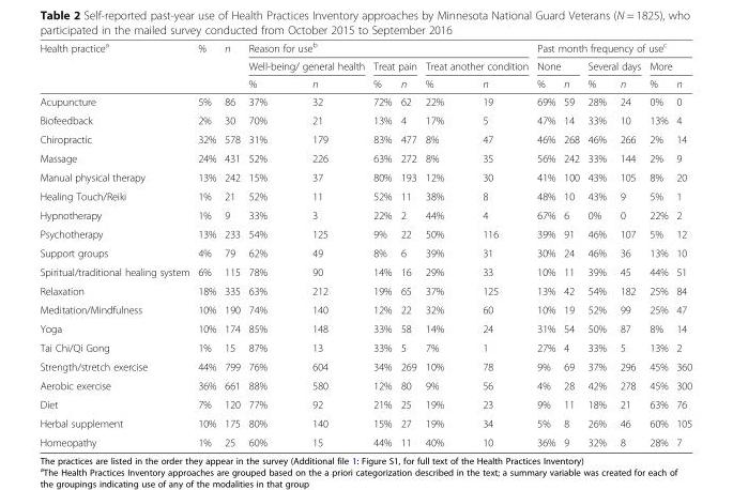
<table><thead><tr><td rowspan="3">Health practice<sup>a</sup></td><td rowspan="3">%</td><td rowspan="3">n</td><td colspan="6">Reason for use<sup>b</sup></td><td colspan="6">Past month frequency of use<sup>c</sup></td></tr><tr><td colspan="2">Well-being/ general health</td><td colspan="2">Treat pain</td><td colspan="2">Treat another condition</td><td colspan="2">None</td><td colspan="2">Several days</td><td colspan="2">More</td></tr><tr><td>%</td><td>n</td><td>%</td><td>n</td><td>%</td><td>n</td><td>%</td><td>n</td><td>%</td><td>n</td><td>%</td><td>n</td></tr></thead><tbody><tr><td>Acupuncture</td><td>5%</td><td>86</td><td>37%</td><td>32</td><td>72%</td><td>62</td><td>22%</td><td>19</td><td>69%</td><td>59</td><td>28%</td><td>24</td><td>0%</td><td>0</td></tr><tr><td>Biofeedback</td><td>2%</td><td>30</td><td>70%</td><td>21</td><td>13%</td><td>4</td><td>17%</td><td>5</td><td>47%</td><td>14</td><td>33%</td><td>10</td><td>13%</td><td>4</td></tr><tr><td>Chiropractic</td><td>32%</td><td>578</td><td>31%</td><td>179</td><td>83%</td><td>477</td><td>8%</td><td>47</td><td>46%</td><td>268</td><td>46%</td><td>266</td><td>2%</td><td>14</td></tr><tr><td>Massage</td><td>24%</td><td>431</td><td>52%</td><td>226</td><td>63%</td><td>272</td><td>8%</td><td>35</td><td>56%</td><td>242</td><td>33%</td><td>144</td><td>2%</td><td>9</td></tr><tr><td>Manual physical therapy</td><td>13%</td><td>242</td><td>15%</td><td>37</td><td>80%</td><td>193</td><td>12%</td><td>30</td><td>41%</td><td>100</td><td>43%</td><td>105</td><td>8%</td><td>20</td></tr><tr><td>Healing Touch/Reiki</td><td>1%</td><td>21</td><td>52%</td><td>11</td><td>52%</td><td>11</td><td>38%</td><td>8</td><td>48%</td><td>10</td><td>43%</td><td>9</td><td>5%</td><td>1</td></tr><tr><td>Hypnotherapy</td><td>1%</td><td>9</td><td>33%</td><td>3</td><td>22%</td><td>2</td><td>44%</td><td>4</td><td>67%</td><td>6</td><td>0%</td><td>0</td><td>22%</td><td>2</td></tr><tr><td>Psychotherapy</td><td>13%</td><td>233</td><td>54%</td><td>125</td><td>9%</td><td>22</td><td>50%</td><td>116</td><td>39%</td><td>91</td><td>46%</td><td>107</td><td>5%</td><td>12</td></tr><tr><td>Support groups</td><td>4%</td><td>79</td><td>62%</td><td>49</td><td>8%</td><td>6</td><td>39%</td><td>31</td><td>30%</td><td>24</td><td>46%</td><td>36</td><td>13%</td><td>10</td></tr><tr><td>Spiritual/traditional healing system</td><td>6%</td><td>115</td><td>78%</td><td>90</td><td>14%</td><td>16</td><td>29%</td><td>33</td><td>10%</td><td>11</td><td>39%</td><td>45</td><td>44%</td><td>51</td></tr><tr><td>Relaxation</td><td>18%</td><td>335</td><td>63%</td><td>212</td><td>19%</td><td>65</td><td>37%</td><td>125</td><td>13%</td><td>42</td><td>54%</td><td>182</td><td>25%</td><td>84</td></tr><tr><td>Meditation/Mindfulness</td><td>10%</td><td>190</td><td>74%</td><td>140</td><td>12%</td><td>22</td><td>32%</td><td>60</td><td>10%</td><td>19</td><td>52%</td><td>99</td><td>25%</td><td>47</td></tr><tr><td>Yoga</td><td>10%</td><td>174</td><td>85%</td><td>148</td><td>33%</td><td>58</td><td>14%</td><td>24</td><td>31%</td><td>54</td><td>50%</td><td>87</td><td>8%</td><td>14</td></tr><tr><td>Tai Chi/Qi Gong</td><td>1%</td><td>15</td><td>87%</td><td>13</td><td>33%</td><td>5</td><td>7%</td><td>1</td><td>27%</td><td>4</td><td>33%</td><td>5</td><td>13%</td><td>2</td></tr><tr><td>Strength/stretch exercise</td><td>44%</td><td>799</td><td>76%</td><td>604</td><td>34%</td><td>269</td><td>10%</td><td>78</td><td>9%</td><td>69</td><td>37%</td><td>296</td><td>45%</td><td>360</td></tr><tr><td>Aerobic exercise</td><td>36%</td><td>661</td><td>88%</td><td>580</td><td>12%</td><td>80</td><td>9%</td><td>56</td><td>4%</td><td>28</td><td>42%</td><td>278</td><td>45%</td><td>300</td></tr><tr><td>Diet</td><td>7%</td><td>120</td><td>77%</td><td>92</td><td>21%</td><td>25</td><td>19%</td><td>23</td><td>9%</td><td>11</td><td>18%</td><td>21</td><td>63%</td><td>76</td></tr><tr><td>Herbal supplement</td><td>10%</td><td>175</td><td>80%</td><td>140</td><td>15%</td><td>27</td><td>19%</td><td>34</td><td>5%</td><td>8</td><td>26%</td><td>46</td><td>60%</td><td>105</td></tr><tr><td>Homeopathy</td><td>1%</td><td>25</td><td>60%</td><td>15</td><td>44%</td><td>11</td><td>40%</td><td>10</td><td>36%</td><td>9</td><td>32%</td><td>8</td><td>28%</td><td>7</td></tr></tbody></table>